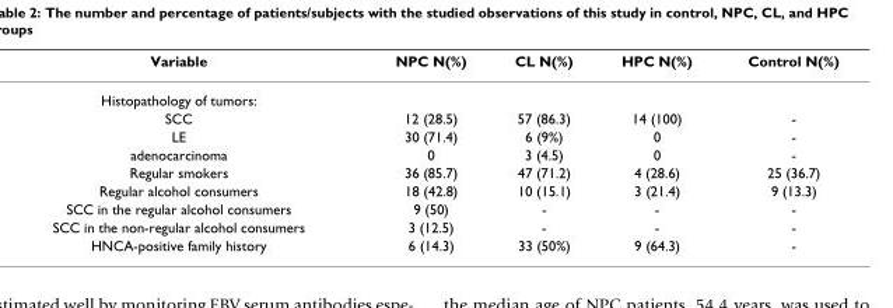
<table><thead><tr><td>Variable</td><td>NPC N(%)</td><td>CL N(%)</td><td>HPC N(%)</td><td>Control N(%)</td></tr></thead><tbody><tr><td colspan="5">Histopathology of tumors:</td></tr><tr><td>SCC</td><td>12 (28.5)</td><td>57 (86.3)</td><td>14 (100)</td><td>-</td></tr><tr><td>LE</td><td>30 (71.4)</td><td>6 (9%)</td><td>0</td><td>-</td></tr><tr><td>adenocarcinoma</td><td>0</td><td>3 (4.5)</td><td>0</td><td>-</td></tr><tr><td>Regular smokers</td><td>36 (85.7)</td><td>47 (71.2)</td><td>4 (28.6)</td><td>25 (36.7)</td></tr><tr><td>Regular alcohol consumers</td><td>18 (42.8)</td><td>10 (15.1)</td><td>3 (21.4)</td><td>9 (13.3)</td></tr><tr><td>SCC in the regular alcohol consumers</td><td>9 (50)</td><td>-</td><td>-</td><td>-</td></tr><tr><td>SCC in the non-regular alcohol consumers</td><td>3 (12.5)</td><td>-</td><td>-</td><td>-</td></tr><tr><td>HNCA-positive family history</td><td>6 (14.3)</td><td>33 (50%)</td><td>9 (64.3)</td><td>-</td></tr></tbody></table>